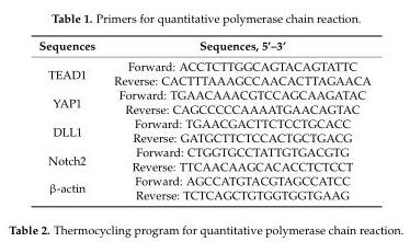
<table><thead><tr><td>Sequences</td><td>Sequences, 5’–3’</td></tr></thead><tbody><tr><td rowspan="2">TEAD1</td><td>Forward: ACCTCTTGGCAGTACAGTATTC</td></tr><tr><td>Reverse: CACTTTAAAGCCAACACTTAGAACA</td></tr><tr><td rowspan="2">YAP1</td><td>Forward: TGAACAAACGTCCAGCAAGATAC</td></tr><tr><td>Reverse: CAGCCCCCAAAATGAACAGTAC</td></tr><tr><td rowspan="2">DLL1</td><td>Forward: TGAACGACTTCTCCTGCACC</td></tr><tr><td>Reverse: GATGCTTCTCCACTGCTGACG</td></tr><tr><td rowspan="2">Notch2</td><td>Forward: CTGGTGCCTATTGTGACGTG</td></tr><tr><td>Reverse: TTCAACAAGCACACCTCTCCT</td></tr><tr><td rowspan="2">β-actin</td><td>Forward: AGCCATGTACGTAGCCATCC</td></tr><tr><td>Reverse: TCTCAGCTGTGGTGGTGAAG</td></tr></tbody></table>